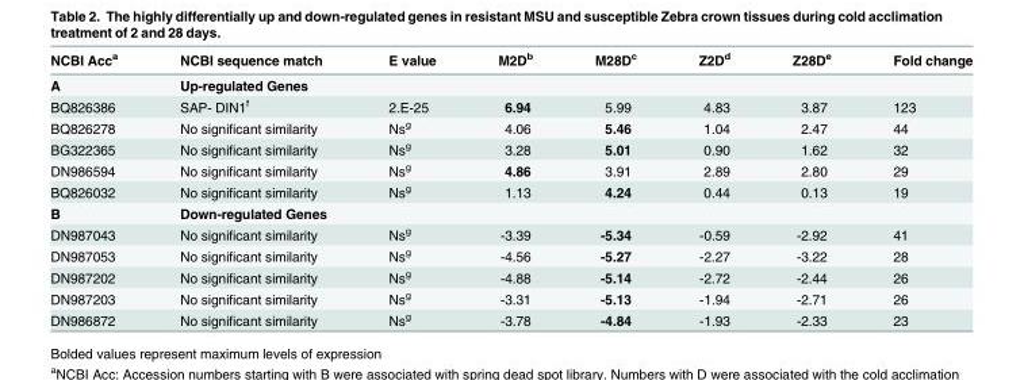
<table><thead><tr><td>NCBI Acc<sup>a</sup></td><td>NCBI sequence match</td><td>E value</td><td>M2D<sup>b</sup></td><td>M28D<sup>c</sup></td><td>Z2D<sup>d</sup></td><td>Z28D<sup>e</sup></td><td>Fold change</td></tr></thead><tbody><tr><td>A</td><td>Up-regulated Genes</td><td></td><td></td><td></td><td></td><td></td><td></td></tr><tr><td>BQ826386</td><td>SAP- DIN1<sup>f</sup></td><td>2.E-25</td><td>6.94</td><td>5.99</td><td>4.83</td><td>3.87</td><td>123</td></tr><tr><td>BQ826278</td><td>No significant similarity</td><td>Ns<sup>g</sup></td><td>4.06</td><td>5.46</td><td>1.04</td><td>2.47</td><td>44</td></tr><tr><td>BG322365</td><td>No significant similarity</td><td>Ns<sup>g</sup></td><td>3.28</td><td>5.01</td><td>0.90</td><td>1.62</td><td>32</td></tr><tr><td>DN986594</td><td>No significant similarity</td><td>Ns<sup>g</sup></td><td>4.86</td><td>3.91</td><td>2.89</td><td>2.80</td><td>29</td></tr><tr><td>BQ826032</td><td>No significant similarity</td><td>Ns<sup>g</sup></td><td>1.13</td><td>4.24</td><td>0.44</td><td>0.13</td><td>19</td></tr><tr><td>B</td><td>Down-regulated Genes</td><td></td><td></td><td></td><td></td><td></td><td></td></tr><tr><td>DN987043</td><td>No significant similarity</td><td>Ns<sup>g</sup></td><td>-3.39</td><td>-5.34</td><td>-0.59</td><td>-2.92</td><td>41</td></tr><tr><td>DN987053</td><td>No significant similarity</td><td>Ns<sup>g</sup></td><td>-4.56</td><td>-5.27</td><td>-2.27</td><td>-3.22</td><td>28</td></tr><tr><td>DN987202</td><td>No significant similarity</td><td>Ns<sup>g</sup></td><td>-4.88</td><td>-5.14</td><td>-2.72</td><td>-2.44</td><td>26</td></tr><tr><td>DN987203</td><td>No significant similarity</td><td>Ns<sup>g</sup></td><td>-3.31</td><td>-5.13</td><td>-1.94</td><td>-2.71</td><td>26</td></tr><tr><td>DN986872</td><td>No significant similarity</td><td>Ns<sup>g</sup></td><td>-3.78</td><td>-4.84</td><td>-1.93</td><td>-2.33</td><td>23</td></tr></tbody></table>